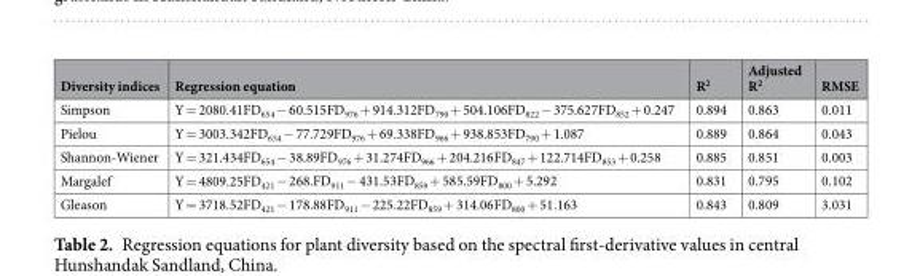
<table><thead><tr><td>Diversity indices</td><td>Regression equation</td><td>R<sup>2</sup></td><td>Adjusted R<sup>2</sup></td><td>RMSE</td></tr></thead><tbody><tr><td>Simpson</td><td>Y = 2080.41FD<sub>654</sub> − 60.515FD<sub>976</sub> + 914.312FD<sub>790</sub> + 504.106FD<sub>822</sub> − 375.627FD<sub>852</sub> + 0.247</td><td>0.894</td><td>0.863</td><td>0.011</td></tr><tr><td>Pielou</td><td>Y = 3003.342FD<sub>654</sub> − 77.729FD<sub>976</sub> + 69.338FD<sub>966</sub> + 938.853FD<sub>790</sub> + 1.087</td><td>0.889</td><td>0.864</td><td>0.043</td></tr><tr><td>Shannon-Wiener</td><td>Y = 321.434FD<sub>654</sub> − 38.89FD<sub>976</sub> + 31.274FD<sub>966</sub> + 204.216FD<sub>847</sub> + 122.714FD<sub>853</sub> + 0.258</td><td>0.885</td><td>0.851</td><td>0.003</td></tr><tr><td>Margalef</td><td>Y = 4809.25FD<sub>421</sub> − 268.FD<sub>911</sub> − 431.53FD<sub>859</sub> + 585.59FD<sub>800</sub> + 5.292</td><td>0.831</td><td>0.795</td><td>0.102</td></tr><tr><td>Gleason</td><td>Y = 3718.52FD<sub>421</sub> − 178.88FD<sub>911</sub> − 225.22FD<sub>859</sub> + 314.06FD<sub>800</sub> + 51.163</td><td>0.843</td><td>0.809</td><td>3.031</td></tr></tbody></table>